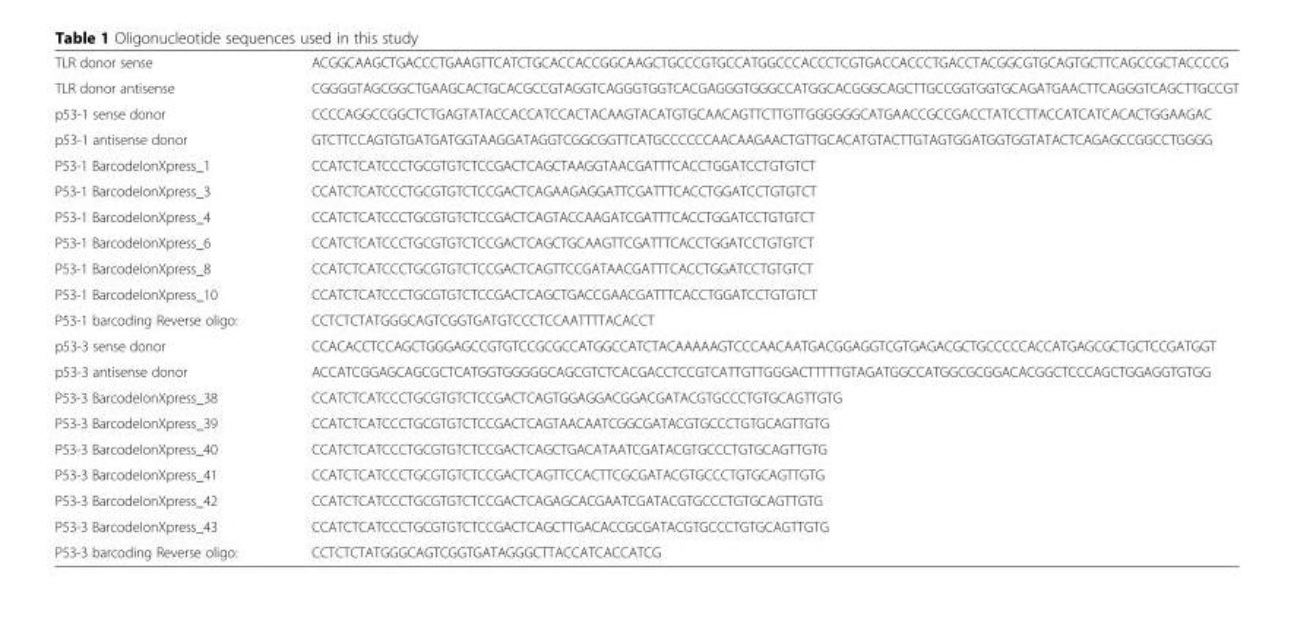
<table><tbody><tr><td>TLR donor sense</td><td>ACGGCAAGCTGACCCTGAAGTTCATCTGCACCACCGGCAAGCTGCCCGTGCCATGGCCCACCCTCGTGACCACCCTGACCTACGGCGTGCAGTGCTTCAGCCGCTACCCCG</td></tr><tr><td>TLR donor antisense</td><td>CGGGGTAGCGGCTGAAGCACTGCACGCCGTAGGTCAGGGTGGTCACGAGGGTGGGCCATGGCACGGGCAGCTTGCCGGTGGTGCAGATGAACTTCAGGGTCAGCTTGCCGT</td></tr><tr><td>p53-1 sense donor</td><td>CCCCAGGCCGGCTCTGAGTATACCACCATCCACTACAAGTACATGTGCAACAGTTCTTGTTGGGGGGCATGAACCGCCGACCTATCCTTACCATCATCACACTGGAAGAC</td></tr><tr><td>p53-1 antisense donor</td><td>GTCTTCCAGTGTGATGATGGTAAGGATAGGTCGGCGGTTCATGCCCCCCAACAAGAACTGTTGCACATGTACTTGTAGTGGATGGTGGTATACTCAGAGCCGGCCTGGGG</td></tr><tr><td>P53-1 BarcodeIonXpress_1</td><td>CCATCTCATCCCTGCGTGTCTCCGACTCAGCTAAGGTAACGATTTCACCTGGATCCTGTGTCT</td></tr><tr><td>P53-1 BarcodeIonXpress_3</td><td>CCATCTCATCCCTGCGTGTCTCCGACTCAGAAGAGGATTCGATTTCACCTGGATCCTGTGTCT</td></tr><tr><td>P53-1 BarcodeIonXpress_4</td><td>CCATCTCATCCCTGCGTGTCTCCGACTCAGTACCAAGATCGATTTCACCTGGATCCTGTGTCT</td></tr><tr><td>P53-1 BarcodeIonXpress_6</td><td>CCATCTCATCCCTGCGTGTCTCCGACTCAGCTGCAAGTTCGATTTCACCTGGATCCTGTGTCT</td></tr><tr><td>P53-1 BarcodeIonXpress_8</td><td>CCATCTCATCCCTGCGTGTCTCCGACTCAGTTCCGATAACGATTTCACCTGGATCCTGTGTCT</td></tr><tr><td>P53-1 BarcodeIonXpress_10</td><td>CCATCTCATCCCTGCGTGTCTCCGACTCAGCTGACCGAACGATTTCACCTGGATCCTGTGTCT</td></tr><tr><td>P53-1 barcoding Reverse oligo:</td><td>CCTCTCTATGGGCAGTCGGTGATGTCCCTCCAATTTTACACCT</td></tr><tr><td>p53-3 sense donor</td><td>CCACACCTCCAGCTGGGAGCCGTGTCCGCGCCATGGCCATCTACAAAAAGTCCCAACAATGACGGAGGTCGTGAGACGCTGCCCCCACCATGAGCGCTGCTCCGATGGT</td></tr><tr><td>p53-3 antisense donor</td><td>ACCATCGGAGCAGCGCTCATGGTGGGGGCAGCGTCTCACGACCTCCGTCATTGTTGGGACTTTTTGTAGATGGCCATGGCGCGGACACGGCTCCCAGCTGGAGGTGTGG</td></tr><tr><td>P53-3 BarcodeIonXpress_38</td><td>CCATCTCATCCCTGCGTGTCTCCGACTCAGTGGAGGACGGACGATACGTGCCCTGTGCAGTTGTG</td></tr><tr><td>P53-3 BarcodeIonXpress_39</td><td>CCATCTCATCCCTGCGTGTCTCCGACTCAGTAACAATCGGCGATACGTGCCCTGTGCAGTTGTG</td></tr><tr><td>P53-3 BarcodeIonXpress_40</td><td>CCATCTCATCCCTGCGTGTCTCCGACTCAGCTGACATAATCGATACGTGCCCTGTGCAGTTGTG</td></tr><tr><td>P53-3 BarcodeIonXpress_41</td><td>CCATCTCATCCCTGCGTGTCTCCGACTCAGTTCCACTTCGCGATACGTGCCCTGTGCAGTTGTG</td></tr><tr><td>P53-3 BarcodeIonXpress_42</td><td>CCATCTCATCCCTGCGTGTCTCCGACTCAGAGCACGAATCGATACGTGCCCTGTGCAGTTGTG</td></tr><tr><td>P53-3 BarcodeIonXpress_43</td><td>CCATCTCATCCCTGCGTGTCTCCGACTCAGCTTGACACCGCGATACGTGCCCTGTGCAGTTGTG</td></tr><tr><td>P53-3 barcoding Reverse oligo:</td><td>CCTCTCTATGGGCAGTCGGTGATAGGGCTTACCATCACCATCG</td></tr></tbody></table>